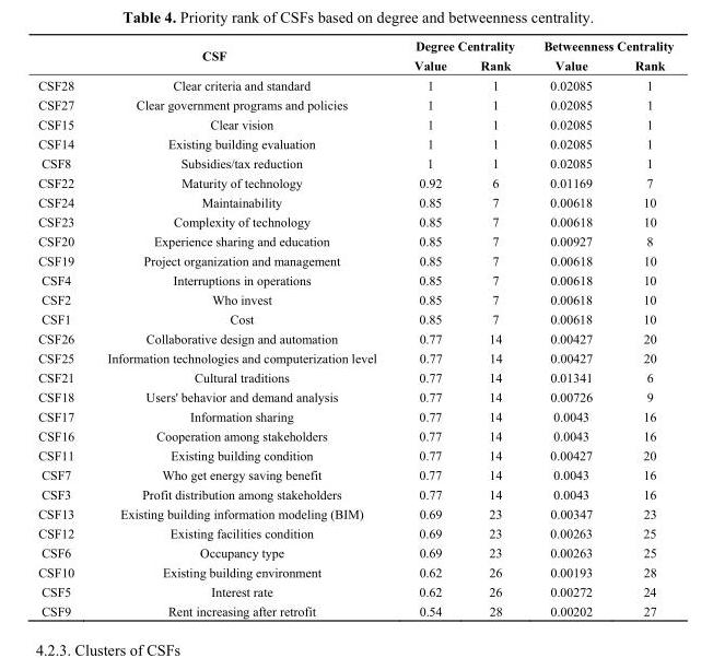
<table><thead><tr><td rowspan="2" colspan="2">CSF</td><td colspan="2">Degree Centrality</td><td colspan="2">Betweenness Centrality</td></tr><tr><td rowspan="2">Value 1</td><td rowspan="2">Rank 1</td><td rowspan="2">Value 0.02085</td><td rowspan="2">Rank 1</td></tr><tr><td>CSF28</td><td>Clear criteria and standard</td></tr></thead><tbody><tr><td>CSF27</td><td>Clear government programs and policies</td><td>1</td><td>1</td><td>0.02085</td><td>1</td></tr><tr><td>CSF15</td><td>Clear vision</td><td>1</td><td>1</td><td>0.02085</td><td>1</td></tr><tr><td>CSF14</td><td>Existing building evaluation</td><td>1</td><td>1</td><td>0.02085</td><td>1</td></tr><tr><td>CSF8</td><td>Subsidies/tax reduction</td><td>1</td><td>1</td><td>0.02085</td><td>1</td></tr><tr><td>CSF22</td><td>Maturity of technology</td><td>0.92</td><td>6</td><td>0.01169</td><td>7</td></tr><tr><td>CSF24</td><td>Maintainability</td><td>0.85</td><td>7</td><td>0.00618</td><td>10</td></tr><tr><td>CSF23</td><td>Complexity of technology</td><td>0.85</td><td>7</td><td>0.00618</td><td>10</td></tr><tr><td>CSF20</td><td>Experience sharing and education</td><td>0.85</td><td>7</td><td>0.00927</td><td>8</td></tr><tr><td>CSF19</td><td>Project organization and management</td><td>0.85</td><td>7</td><td>0.00618</td><td>10</td></tr><tr><td>CSF4</td><td>Interruptions in operations</td><td>0.85</td><td>7</td><td>0.00618</td><td>10</td></tr><tr><td>CSF2</td><td>Who invest</td><td>0.85</td><td>7</td><td>0.00618</td><td>10</td></tr><tr><td>CSF1</td><td>Cost</td><td>0.85</td><td>7</td><td>0.00618</td><td>10</td></tr><tr><td>CSF26</td><td>Collaborative design and automation</td><td>0.77</td><td>14</td><td>0.00427</td><td>20</td></tr><tr><td>CSF25</td><td>Information technologies and computerization level</td><td>0.77</td><td>14</td><td>0.00427</td><td>20</td></tr><tr><td>CSF21</td><td>Cultural traditions</td><td>0.77</td><td>14</td><td>0.01341</td><td>6</td></tr><tr><td>CSF18</td><td>Users&#x27; behavior and demand analysis</td><td>0.77</td><td>14</td><td>0.00726</td><td>9</td></tr><tr><td>CSF17</td><td>Information sharing</td><td>0.77</td><td>14</td><td>0.0043</td><td>16</td></tr><tr><td>CSF16</td><td>Cooperation among stakeholders</td><td>0.77</td><td>14</td><td>0.0043</td><td>16</td></tr><tr><td>CSF11</td><td>Existing building condition</td><td>0.77</td><td>14</td><td>0.00427</td><td>20</td></tr><tr><td>CSF7</td><td>Who get energy saving benefit</td><td>0.77</td><td>14</td><td>0.0043</td><td>16</td></tr><tr><td>CSF3</td><td>Profit distribution among stakeholders</td><td>0.77</td><td>14</td><td>0.0043</td><td>16</td></tr><tr><td>CSF13</td><td>Existing building information modeling (BIM)</td><td>0.69</td><td>23</td><td>0.00347</td><td>23</td></tr><tr><td>CSF12</td><td>Existing facilities condition</td><td>0.69</td><td>23</td><td>0.00263</td><td>25</td></tr><tr><td>CSF6</td><td>Occupancy type</td><td>0.69</td><td>23</td><td>0.00263</td><td>25</td></tr><tr><td>CSF10</td><td>Existing building environment</td><td>0.62</td><td>26</td><td>0.00193</td><td>28</td></tr><tr><td>CSF5</td><td>Interest rate</td><td>0.62</td><td>26</td><td>0.00272</td><td>24</td></tr><tr><td>CSF9</td><td>Rent increasing after retrofit</td><td>0.54</td><td>28</td><td>0.00202</td><td>27</td></tr></tbody></table>